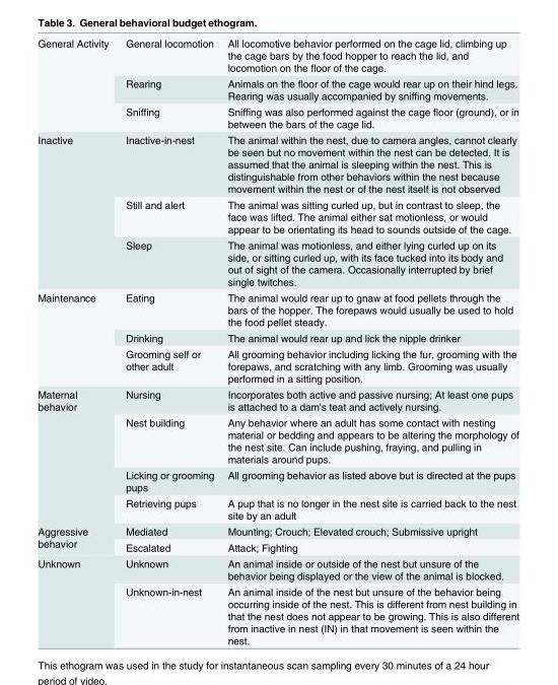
<table><tbody><tr><td rowspan="3">General Activity</td><td>General locomotion</td><td>All locomotive behavior performed on the cage lid, climbing up the cage bars by the food hopper to reach the lid, and locomotion on the floor of the cage.</td></tr><tr><td>Rearing</td><td>Animals on the floor of the cage would rear up on their hind legs. Rearing was usually accompanied by sniffing movements.</td></tr><tr><td>Sniffing</td><td>Sniffing was also performed against the cage floor (ground), or in between the bars of the cage lid.</td></tr><tr><td rowspan="3">Inactive</td><td>Inactive-in-nest</td><td>The animal within the nest, due to camera angles, cannot clearly be seen but no movement within the nest can be detected. It is assumed that the animal is sleeping within the nest. This is distinguishable from other behaviors within the nest because movement within the nest or of the nest itself is not observed</td></tr><tr><td>Still and alert</td><td>The animal was sitting curled up, but in contrast to sleep, the face was lifted. The animal either sat motionless, or would appear to be orientating its head to sounds outside of the cage.</td></tr><tr><td>Sleep</td><td>The animal was motionless, and either lying curled up on its side, or sitting curled up, with its face tucked into its body and out of sight of the camera. Occasionally interrupted by brief single twitches.</td></tr><tr><td rowspan="3">Maintenance</td><td>Eating</td><td>The animal would rear up to gnaw at food pellets through the bars of the hopper. The forepaws would usually be used to hold the food pellet steady.</td></tr><tr><td>Drinking</td><td>The animal would rear up and lick the nipple drinker</td></tr><tr><td>Grooming self or other adult</td><td>All grooming behavior including licking the fur, grooming with the forepaws, and scratching with any limb. Grooming was usually performed in a sitting position.</td></tr><tr><td rowspan="4">Maternal behavior</td><td>Nursing</td><td>Incorporates both active and passive nursing; At least one pups is attached to a dam&#x27;s teat and actively nursing.</td></tr><tr><td>Nest building</td><td>Any behavior where an adult has some contact with nesting material or bedding and appears to be altering the morphology of the nest site. Can include pushing, fraying, and pulling in materials around pups.</td></tr><tr><td>Licking or grooming pups</td><td>All grooming behavior as listed above but is directed at the pups</td></tr><tr><td>Retrieving pups</td><td>A pup that is no longer in the nest site is carried back to the nest site by an adult</td></tr><tr><td rowspan="2">Aggressive behavior</td><td>Mediated</td><td>Mounting; Crouch; Elevated crouch; Submissive upright</td></tr><tr><td>Escalated</td><td>Attack; Fighting</td></tr><tr><td rowspan="2">Unknown</td><td>Unknown</td><td>An animal inside or outside of the nest but unsure of the behavior being displayed or the view of the animal is blocked.</td></tr><tr><td>Unknown-in-nest</td><td>An animal inside of the nest but unsure of the behavior being occurring inside of the nest. This is different from nest building in that the nest does not appear to be growing. This is also different from inactive in nest (IN) in that movement is seen within the nest.</td></tr></tbody></table>